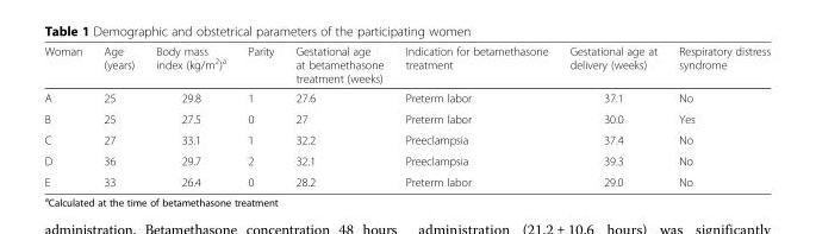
<table><thead><tr><td>Woman</td><td>Age (years)</td><td>Body mass index (kg/m<sup>2</sup>)<sup>a</sup></td><td>Parity</td><td>Gestational age at betamethasone treatment (weeks)</td><td>Indication for betamethasone treatment</td><td>Gestational age at delivery (weeks)</td><td>Respiratory distress syndrome</td></tr></thead><tbody><tr><td>A</td><td>25</td><td>29.8</td><td>1</td><td>27.6</td><td>Preterm labor</td><td>37.1</td><td>No</td></tr><tr><td>B</td><td>25</td><td>27.5</td><td>0</td><td>27</td><td>Preterm labor</td><td>30.0</td><td>Yes</td></tr><tr><td>C</td><td>27</td><td>33.1</td><td>1</td><td>32.2</td><td>Preeclampsia</td><td>37.4</td><td>No</td></tr><tr><td>D</td><td>36</td><td>29.7</td><td>2</td><td>32.1</td><td>Preeclampsia</td><td>39.3</td><td>No</td></tr><tr><td>E</td><td>33</td><td>26.4</td><td>0</td><td>28.2</td><td>Preterm labor</td><td>29.0</td><td>No</td></tr></tbody></table>